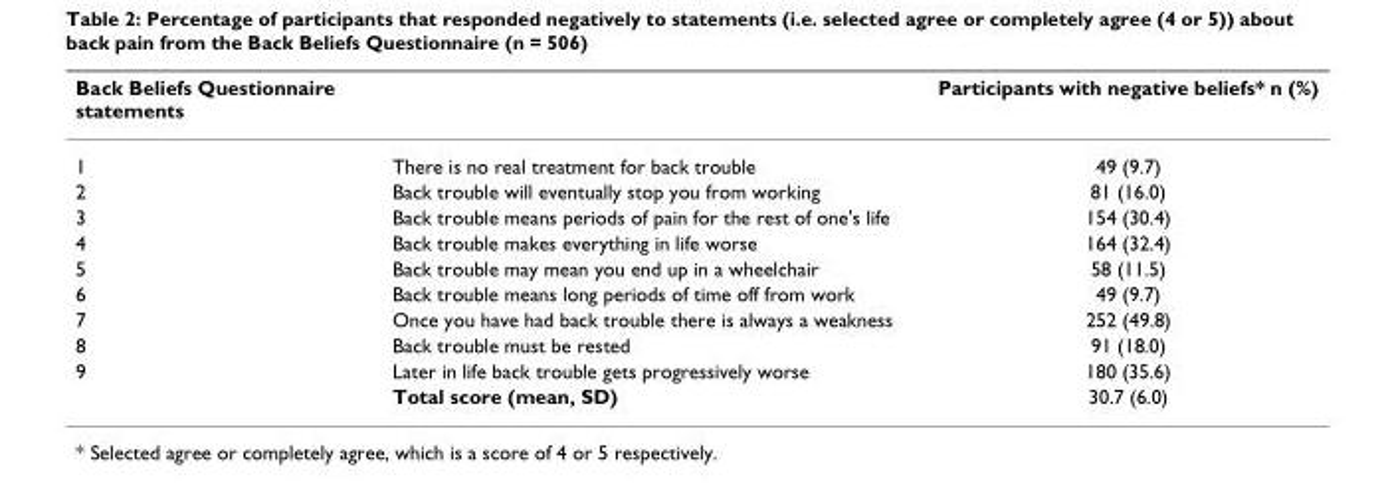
<table><thead><tr><td>Back Beliefs Questionnaire statements</td><td></td><td>Participants with negative beliefs* n (%)</td></tr></thead><tbody><tr><td>1</td><td>There is no real treatment for back trouble</td><td>49 (9.7)</td></tr><tr><td>2</td><td>Back trouble will eventually stop you from working</td><td>81 (16.0)</td></tr><tr><td>3</td><td>Back trouble means periods of pain for the rest of one&#x27;s life</td><td>154 (30.4)</td></tr><tr><td>4</td><td>Back trouble makes everything in life worse</td><td>164 (32.4)</td></tr><tr><td>5</td><td>Back trouble may mean you end up in a wheelchair</td><td>58 (11.5)</td></tr><tr><td>6</td><td>Back trouble means long periods of time off from work</td><td>49 (9.7)</td></tr><tr><td>7</td><td>Once you have had back trouble there is always a weakness</td><td>252 (49.8)</td></tr><tr><td>8</td><td>Back trouble must be rested</td><td>91 (18.0)</td></tr><tr><td rowspan="2">9</td><td>Later in life back trouble gets progressively worse</td><td>180 (35.6)</td></tr><tr><td>Total score (mean, SD)</td><td>30.7 (6.0)</td></tr></tbody></table>